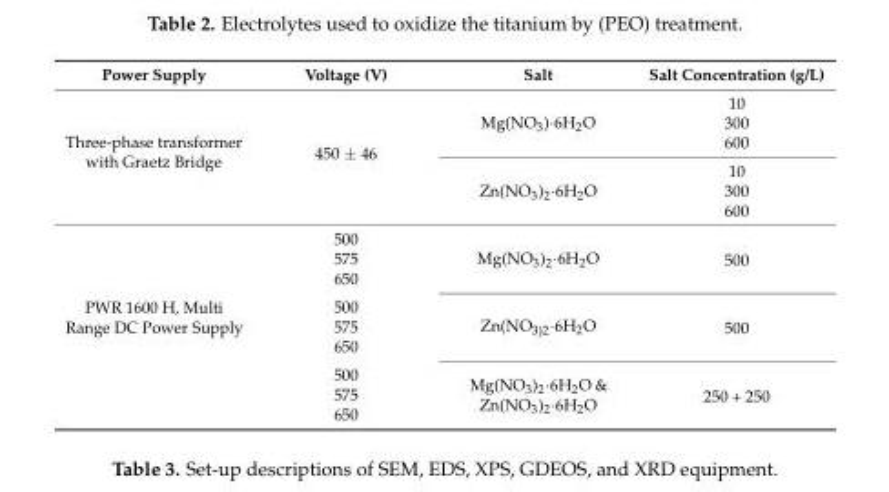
<table><thead><tr><td>Power Supply</td><td>Voltage (V)</td><td>Salt</td><td>Salt Concentration (g/L)</td></tr></thead><tbody><tr><td rowspan="6">Three-phase transformer with Graetz Bridge</td><td rowspan="6">450 ± 46</td><td rowspan="3">Mg(NO<sub>3</sub>)·6H<sub>2</sub>O</td><td>10</td></tr><tr><td>300</td></tr><tr><td>600</td></tr><tr><td rowspan="3">Zn(NO<sub>3</sub>)<sub>2</sub>·6H<sub>2</sub>O</td><td>10</td></tr><tr><td>300</td></tr><tr><td>600</td></tr><tr><td rowspan="9">PWR 1600 H, Multi Range DC Power Supply</td><td>500</td><td rowspan="3">Mg(NO<sub>3</sub>)<sub>2</sub>·6H<sub>2</sub>O</td><td rowspan="3">500</td></tr><tr><td>575</td></tr><tr><td>650</td></tr><tr><td>500</td><td rowspan="3">Zn(NO<sub>3)2</sub>·6H<sub>2</sub>O</td><td rowspan="3">500</td></tr><tr><td>575</td></tr><tr><td>650</td></tr><tr><td>500</td><td rowspan="3">Mg(NO<sub>3</sub>)<sub>2</sub>·6H<sub>2</sub>O &amp; Zn(NO<sub>3</sub>)<sub>2</sub>·6H<sub>2</sub>O</td><td rowspan="3">250 + 250</td></tr><tr><td>575</td></tr><tr><td>650</td></tr></tbody></table>